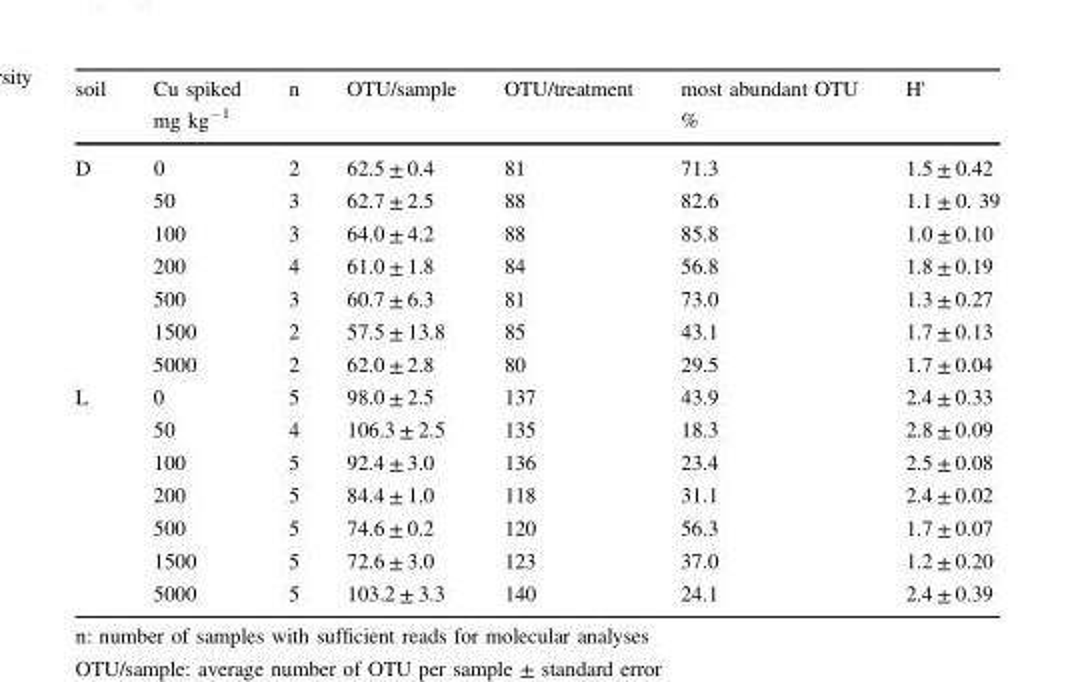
<table><thead><tr><td rowspan="2">soil</td><td rowspan="2">Cu spiked mg kg<sup>−1</sup></td><td rowspan="2">n</td><td rowspan="2">OTU/sample</td><td rowspan="2">OTU/treatment</td><td rowspan="2">most abundant OTU %</td><td rowspan="2">H&#x27;</td></tr><tr></tr></thead><tbody><tr><td rowspan="7">D</td><td>0</td><td>2</td><td>62.5 ± 0.4</td><td>81</td><td>71.3</td><td>1.5 ± 0.42</td></tr><tr><td>50</td><td>3</td><td>62.7 ± 2.5</td><td>88</td><td>82.6</td><td>1.1 ± 0. 39</td></tr><tr><td>100</td><td>3</td><td>64.0 ± 4.2</td><td>88</td><td>85.8</td><td>1.0 ± 0.10</td></tr><tr><td>200</td><td>4</td><td>61.0 ± 1.8</td><td>84</td><td>56.8</td><td>1.8 ± 0.19</td></tr><tr><td>500</td><td>3</td><td>60.7 ± 6.3</td><td>81</td><td>73.0</td><td>1.3 ± 0.27</td></tr><tr><td>1500</td><td>2</td><td>57.5 ± 13.8</td><td>85</td><td>43.1</td><td>1.7 ± 0.13</td></tr><tr><td>5000</td><td>2</td><td>62.0 ± 2.8</td><td>80</td><td>29.5</td><td>1.7 ± 0.04</td></tr><tr><td rowspan="7">L</td><td>0</td><td>5</td><td>98.0 ± 2.5</td><td>137</td><td>43.9</td><td>2.4 ± 0.33</td></tr><tr><td>50</td><td>4</td><td>106.3 ± 2.5</td><td>135</td><td>18.3</td><td>2.8 ± 0.09</td></tr><tr><td>100</td><td>5</td><td>92.4 ± 3.0</td><td>136</td><td>23.4</td><td>2.5 ± 0.08</td></tr><tr><td>200</td><td>5</td><td>84.4 ± 1.0</td><td>118</td><td>31.1</td><td>2.4 ± 0.02</td></tr><tr><td>500</td><td>5</td><td>74.6 ± 0.2</td><td>120</td><td>56.3</td><td>1.7 ± 0.07</td></tr><tr><td>1500</td><td>5</td><td>72.6 ± 3.0</td><td>123</td><td>37.0</td><td>1.2 ± 0.20</td></tr><tr><td>5000</td><td>5</td><td>103.2 ± 3.3</td><td>140</td><td>24.1</td><td>2.4 ± 0.39</td></tr></tbody></table>